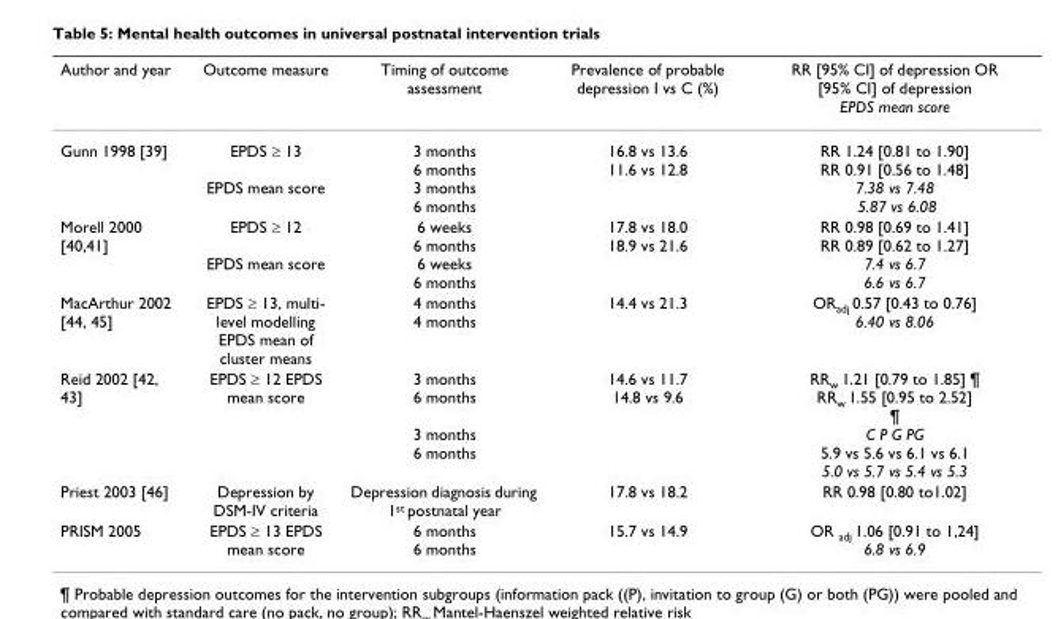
<table><thead><tr><td>Author and year</td><td>Outcome measure</td><td>Timing of outcome assessment</td><td>Prevalence of probable depression I vs C (%)</td><td>RR [95% CI] of depression OR [95% CI] of depression EPDS mean score</td></tr></thead><tbody><tr><td>Gunn 1998 [39]</td><td>EPDS ≥ 13 EPDS mean score</td><td>3 months 6 months 3 months 6 months</td><td>16.8 vs 13.6 11.6 vs 12.8</td><td>RR 1.24 [0.81 to 1.90] RR 0.91 [0.56 to 1.48] 7.38 vs 7.48 5.87 vs 6.08</td></tr><tr><td>Morell 2000 [40,41]</td><td>EPDS ≥ 12 EPDS mean score</td><td>6 weeks 6 months 6 weeks 6 months</td><td>17.8 vs 18.0 18.9 vs 21.6</td><td>RR 0.98 [0.69 to 1.41] RR 0.89 [0.62 to 1.27] 7.4 vs 6.7 6.6 vs 6.7</td></tr><tr><td>MacArthur 2002 [44, 45]</td><td>EPDS ≥ 13, multi- level modelling EPDS mean of cluster means</td><td>4 months 4 months</td><td>14.4 vs 21.3</td><td>ORadj 0.57 [0.43 to 0.76] 6.40 vs 8.06</td></tr><tr><td>Reid 2002 [42, 43]</td><td>EPDS ≥ 12 EPDS mean score</td><td>3 months 6 months 3 months 6 months</td><td>14.6 vs 11.7 14.8 vs 9.6</td><td>RRw 1.21 [0.79 to 1.85] ¶ RRw 1.55 [0.95 to 2.52] ¶ C P G PG 5.9 vs 5.6 vs 6.1 vs 6.1 5.0 vs 5.7 vs 5.4 vs 5.3</td></tr><tr><td>Priest 2003 [46]</td><td>Depression by DSM-IV criteria</td><td>Depression diagnosis during 1st postnatal year</td><td>17.8 vs 18.2</td><td>RR 0.98 [0.80 to1.02]</td></tr><tr><td>PRISM 2005</td><td>EPDS ≥ 13 EPDS mean score</td><td>6 months 6 months</td><td>15.7 vs 14.9</td><td>OR adj 1.06 [0.91 to 1,24] 6.8 vs 6.9</td></tr></tbody></table>